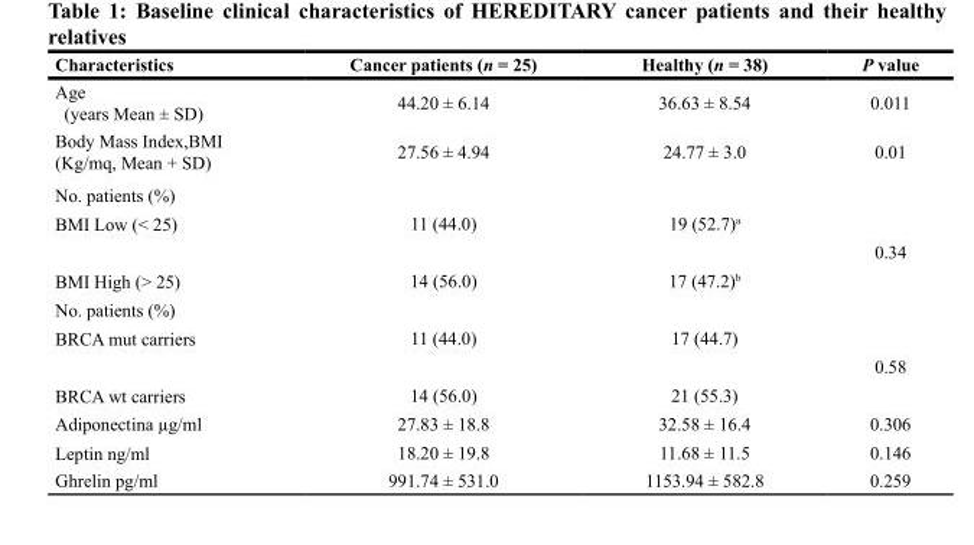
<table><thead><tr><td>Characteristics</td><td>Cancer patients (n = 25)</td><td>Healthy (n = 38)</td><td>P value</td></tr></thead><tbody><tr><td>Age (years Mean ± SD)</td><td>44.20 ± 6.14</td><td>36.63 ± 8.54</td><td>0.011</td></tr><tr><td>Body Mass Index,BMI (Kg/mq, Mean + SD)</td><td>27.56 ± 4.94</td><td>24.77 ± 3.0</td><td>0.01</td></tr><tr><td colspan="4">No. patients (%)</td></tr><tr><td rowspan="2">BMI Low (&lt; 25)</td><td>11 (44.0)</td><td>19 (52.7)<sup>a</sup></td><td></td></tr><tr><td></td><td></td><td>0.34</td></tr><tr><td>BMI High (&gt; 25)</td><td>14 (56.0)</td><td>17 (47.2)<sup>b</sup></td><td></td></tr><tr><td colspan="4">No. patients (%)</td></tr><tr><td rowspan="2">BRCA mut carriers</td><td>11 (44.0)</td><td>17 (44.7)</td><td></td></tr><tr><td></td><td></td><td>0.58</td></tr><tr><td>BRCA wt carriers</td><td>14 (56.0)</td><td>21 (55.3)</td><td></td></tr><tr><td>Adiponectina µg/ml</td><td>27.83 ± 18.8</td><td>32.58 ± 16.4</td><td>0.306</td></tr><tr><td>Leptin ng/ml</td><td>18.20 ± 19.8</td><td>11.68 ± 11.5</td><td>0.146</td></tr><tr><td>Ghrelin pg/ml</td><td>991.74 ± 531.0</td><td>1153.94 ± 582.8</td><td>0.259</td></tr></tbody></table>